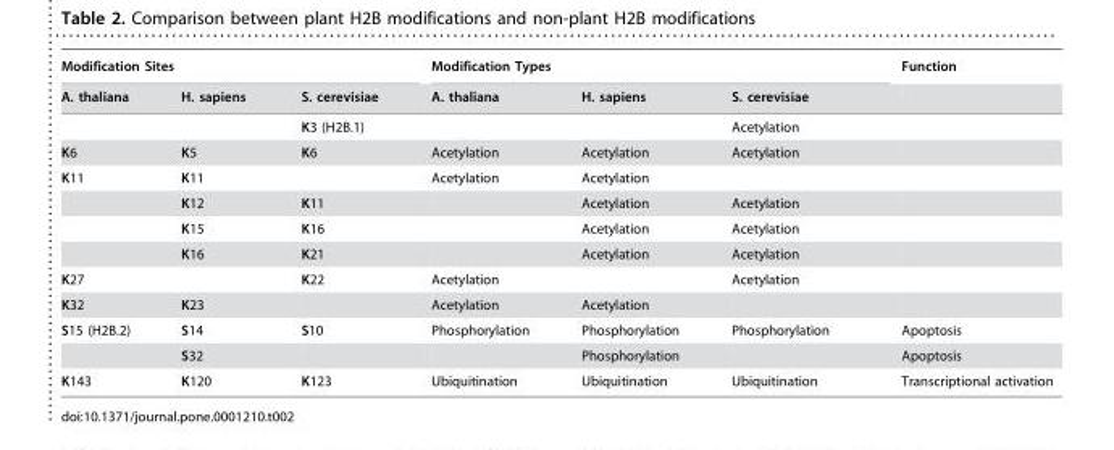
<table><thead><tr><td colspan="3">Modification Sites</td><td colspan="3">Modification Types</td><td rowspan="2">Function</td></tr><tr><td>A. thaliana</td><td>H. sapiens</td><td>S. cerevisiae</td><td>A. thaliana</td><td>H. sapiens</td><td>S. cerevisiae</td></tr></thead><tbody><tr><td></td><td></td><td>K3 (H2B.1)</td><td></td><td></td><td>Acetylation</td><td></td></tr><tr><td>K6</td><td>K5</td><td>K6</td><td>Acetylation</td><td>Acetylation</td><td>Acetylation</td><td></td></tr><tr><td rowspan="4">K11</td><td>K11</td><td></td><td>Acetylation</td><td>Acetylation</td><td></td><td></td></tr><tr><td>K12</td><td>K11</td><td></td><td>Acetylation</td><td>Acetylation</td><td></td></tr><tr><td>K15</td><td>K16</td><td></td><td>Acetylation</td><td>Acetylation</td><td></td></tr><tr><td>K16</td><td>K21</td><td></td><td>Acetylation</td><td>Acetylation</td><td></td></tr><tr><td>K27</td><td></td><td>K22</td><td>Acetylation</td><td></td><td>Acetylation</td><td></td></tr><tr><td>K32</td><td>K23</td><td></td><td>Acetylation</td><td>Acetylation</td><td></td><td></td></tr><tr><td rowspan="2">S15 (H2B.2)</td><td>S14</td><td>S10</td><td>Phosphorylation</td><td>Phosphorylation</td><td>Phosphorylation</td><td>Apoptosis</td></tr><tr><td>S32</td><td></td><td></td><td>Phosphorylation</td><td></td><td>Apoptosis</td></tr><tr><td>K143</td><td>K120</td><td>K123</td><td>Ubiquitination</td><td>Ubiquitination</td><td>Ubiquitination</td><td>Transcriptional activation</td></tr></tbody></table>